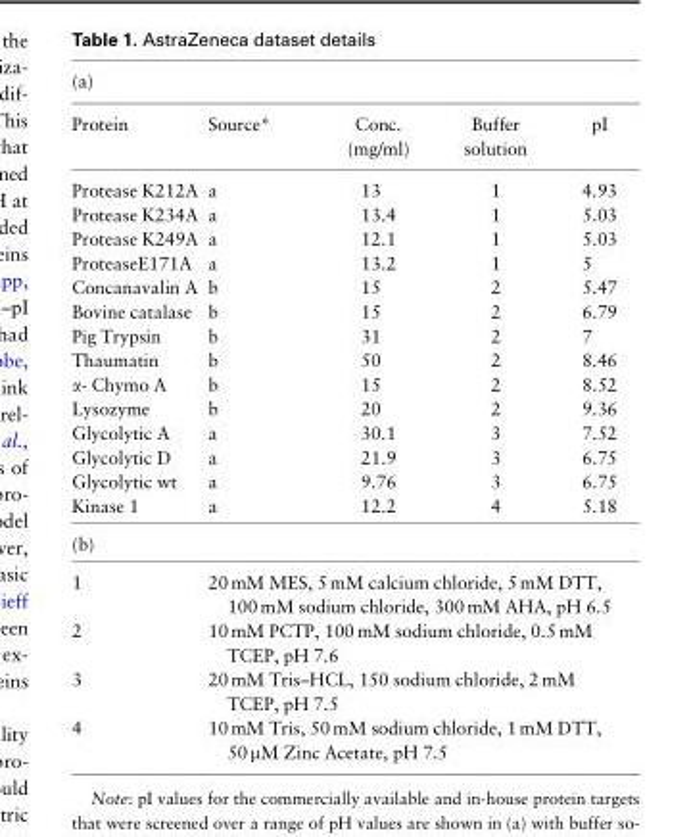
<table><thead><tr><td colspan="5">(a)</td></tr><tr><td>Protein</td><td>Source*</td><td>Conc. (mg/ml)</td><td>Buffer solution</td><td>pI</td></tr></thead><tbody><tr><td>Protease K212A</td><td>a</td><td>13</td><td>1</td><td>4.93</td></tr><tr><td>Protease K234A</td><td>a</td><td>13.4</td><td>1</td><td>5.03</td></tr><tr><td>Protease K249A</td><td>a</td><td>12.1</td><td>1</td><td>5.03</td></tr><tr><td>ProteaseE171A</td><td>a</td><td>13.2</td><td>1</td><td>5</td></tr><tr><td>Concanavalin A</td><td>b</td><td>15</td><td>2</td><td>5.47</td></tr><tr><td>Bovine catalase</td><td>b</td><td>15</td><td>2</td><td>6.79</td></tr><tr><td>Pig Trypsin</td><td>b</td><td>31</td><td>2</td><td>7</td></tr><tr><td>Thaumatin</td><td>b</td><td>50</td><td>2</td><td>8.46</td></tr><tr><td>α- Chymo A</td><td>b</td><td>15</td><td>2</td><td>8.52</td></tr><tr><td>Lysozyme</td><td>b</td><td>20</td><td>2</td><td>9.36</td></tr><tr><td>Glycolytic A</td><td>a</td><td>30.1</td><td>3</td><td>7.52</td></tr><tr><td>Glycolytic D</td><td>a</td><td>21.9</td><td>3</td><td>6.75</td></tr><tr><td>Glycolytic wt</td><td>a</td><td>9.76</td><td>3</td><td>6.75</td></tr><tr><td>Kinase 1</td><td>a</td><td>12.2</td><td>4</td><td>5.18</td></tr><tr><td colspan="5">(b)</td></tr><tr><td>1</td><td colspan="4">20 mM MES, 5 mM calcium chloride, 5 mM DTT, 100 mM sodium chloride, 300 mM AHA, pH 6.5</td></tr><tr><td>2</td><td colspan="4">10 mM PCTP, 100 mM sodium chloride, 0.5 mM TCEP, pH 7.6</td></tr><tr><td>3</td><td colspan="4">20 mM Tris–HCL, 150 sodium chloride, 2 mM TCEP, pH 7.5</td></tr><tr><td>4</td><td colspan="4">10 mM Tris, 50 mM sodium chloride, 1 mM DTT, 50 µM Zinc Acetate, pH 7.5</td></tr></tbody></table>